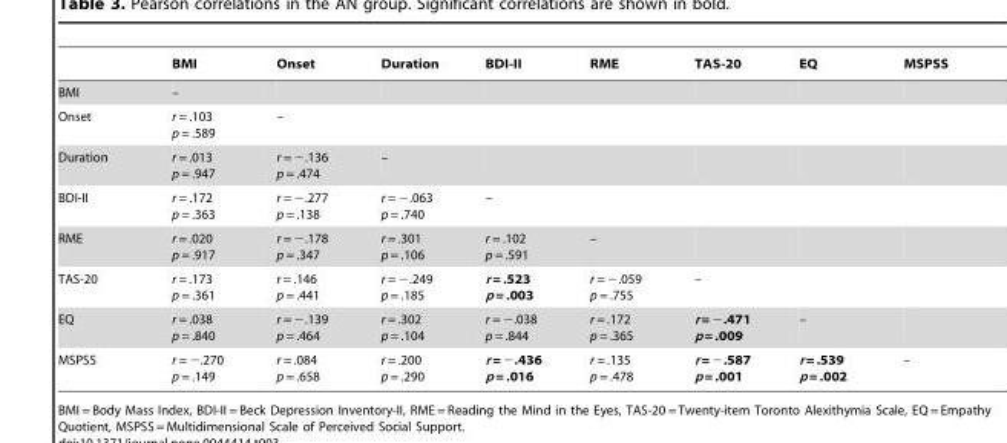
<table><thead><tr><td></td><td>BMI</td><td>Onset</td><td>Duration</td><td>BDI-II</td><td>RME</td><td>TAS-20</td><td>EQ</td><td>MSPSS</td></tr></thead><tbody><tr><td>BMI</td><td>–</td><td></td><td></td><td></td><td></td><td></td><td></td><td></td></tr><tr><td>Onset</td><td>r = .103 p = .589</td><td>–</td><td></td><td></td><td></td><td></td><td></td><td></td></tr><tr><td>Duration</td><td>r = .013 p = .947</td><td>r = −.136 p = .474</td><td>–</td><td></td><td></td><td></td><td></td><td></td></tr><tr><td>BDI-II</td><td>r = .172 p = .363</td><td>r = −.277 p = .138</td><td>r = −.063 p = .740</td><td>–</td><td></td><td></td><td></td><td></td></tr><tr><td>RME</td><td>r = .020 p = .917</td><td>r = −.178 p = .347</td><td>r = .301 p = .106</td><td>r = .102 p = .591</td><td>–</td><td></td><td></td><td></td></tr><tr><td>TAS-20</td><td>r = .173 p = .361</td><td>r = .146 p = .441</td><td>r = −.249 p = .185</td><td>r = .523 p = .003</td><td>r = −.059 p = .755</td><td>–</td><td></td><td></td></tr><tr><td>EQ</td><td>r = .038 p = .840</td><td>r = −.139 p = .464</td><td>r = .302 p = .104</td><td>r = −.038 p = .844</td><td>r = .172 p = .365</td><td>r = −.471 p = .009</td><td>–</td><td></td></tr><tr><td>MSPSS</td><td>r = −.270 p = .149</td><td>r = .084 p = .658</td><td>r = .200 p = .290</td><td>r = −.436 p = .016</td><td>r = .135 p = .478</td><td>r = −.587 p = .001</td><td>r = .539 p = .002</td><td>–</td></tr></tbody></table>